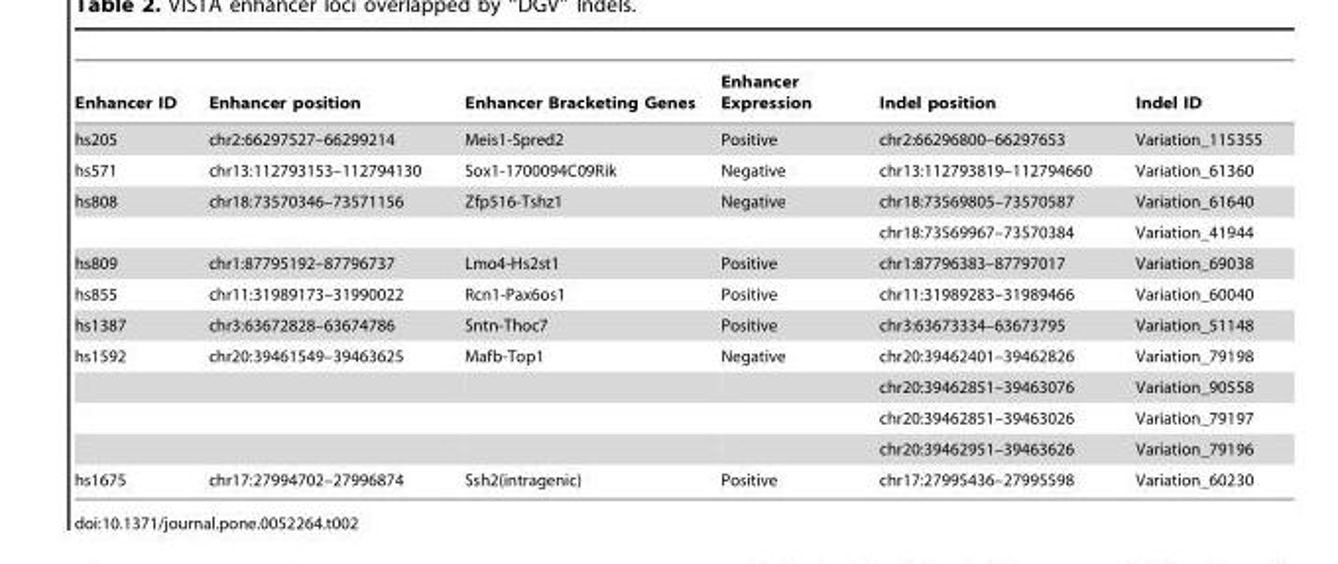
<table><thead><tr><td>Enhancer ID</td><td>Enhancer position</td><td>Enhancer Bracketing Genes</td><td>Enhancer Expression</td><td>Indel position</td><td>Indel ID</td></tr></thead><tbody><tr><td>hs205</td><td>chr2:66297527–66299214</td><td>Meis1-Spred2</td><td>Positive</td><td>chr2:66296800–66297653</td><td>Variation_115355</td></tr><tr><td>hs571</td><td>chr13:112793153–112794130</td><td>Sox1-1700094C09Rik</td><td>Negative</td><td>chr13:112793819–112794660</td><td>Variation_61360</td></tr><tr><td rowspan="2">hs808</td><td>chr18:73570346–73571156</td><td>Zfp516-Tshz1</td><td>Negative</td><td>chr18:73569805–73570587</td><td>Variation_61640</td></tr><tr><td></td><td></td><td></td><td>chr18:73569967–73570384</td><td>Variation_41944</td></tr><tr><td>hs809</td><td>chr1:87795192–87796737</td><td>Lmo4-Hs2st1</td><td>Positive</td><td>chr1:87796383–87797017</td><td>Variation_69038</td></tr><tr><td>hs855</td><td>chr11:31989173–31990022</td><td>Rcn1-Pax6os1</td><td>Positive</td><td>chr11:31989283–31989466</td><td>Variation_60040</td></tr><tr><td>hs1387</td><td>chr3:63672828–63674786</td><td>Sntn-Thoc7</td><td>Positive</td><td>chr3:63673334–63673795</td><td>Variation_51148</td></tr><tr><td rowspan="4">hs1592</td><td>chr20:39461549–39463625</td><td>Mafb-Top1</td><td>Negative</td><td>chr20:39462401–39462826</td><td>Variation_79198</td></tr><tr><td></td><td></td><td></td><td>chr20:39462851–39463076</td><td>Variation_90558</td></tr><tr><td></td><td></td><td></td><td>chr20:39462851–39463026</td><td>Variation_79197</td></tr><tr><td></td><td></td><td></td><td>chr20:39462951–39463626</td><td>Variation_79196</td></tr><tr><td>hs1675</td><td>chr17:27994702–27996874</td><td>Ssh2(intragenic)</td><td>Positive</td><td>chr17:27995436–27995598</td><td>Variation_60230</td></tr></tbody></table>